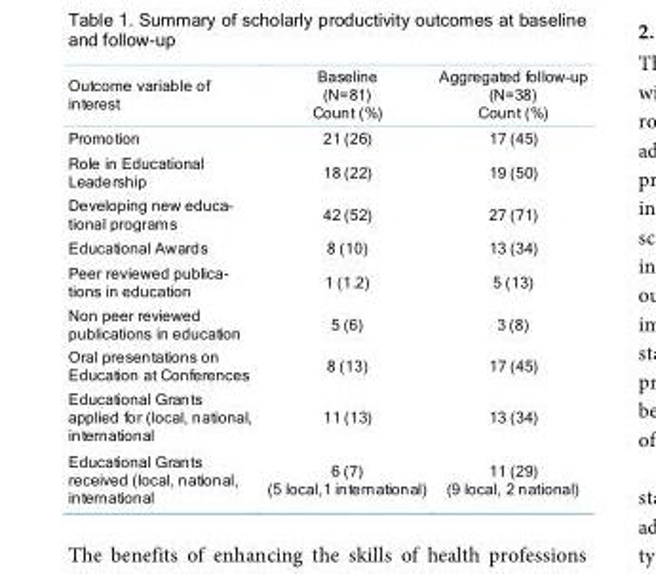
<table><thead><tr><td>Outcome variable of interest</td><td>Baseline (N=81) Count (%)</td><td>Aggregated follow-up (N=38) Count (%)</td></tr></thead><tbody><tr><td>Promotion</td><td>21 (26)</td><td>17 (45)</td></tr><tr><td>Role in Educational Leadership</td><td>18 (22)</td><td>19 (50)</td></tr><tr><td>Developing new educa- tional programs</td><td>42 (52)</td><td>27 (71)</td></tr><tr><td>Educational Awards</td><td>8 (10)</td><td>13 (34)</td></tr><tr><td>Peer reviewed publica- tions in education</td><td>1 (1.2)</td><td>5 (13)</td></tr><tr><td>Non peer reviewed publications in education</td><td>5 (6)</td><td>3 (8)</td></tr><tr><td>Oral presentations on Education at Conferences</td><td>8 (13)</td><td>17 (45)</td></tr><tr><td>Educational Grants applied for (local, national, international</td><td>11 (13)</td><td>13 (34)</td></tr><tr><td>Educational Grants received (local, national, international</td><td>6 (7) (5 local,1 international)</td><td>11 (29) (9 local, 2 national)</td></tr></tbody></table>